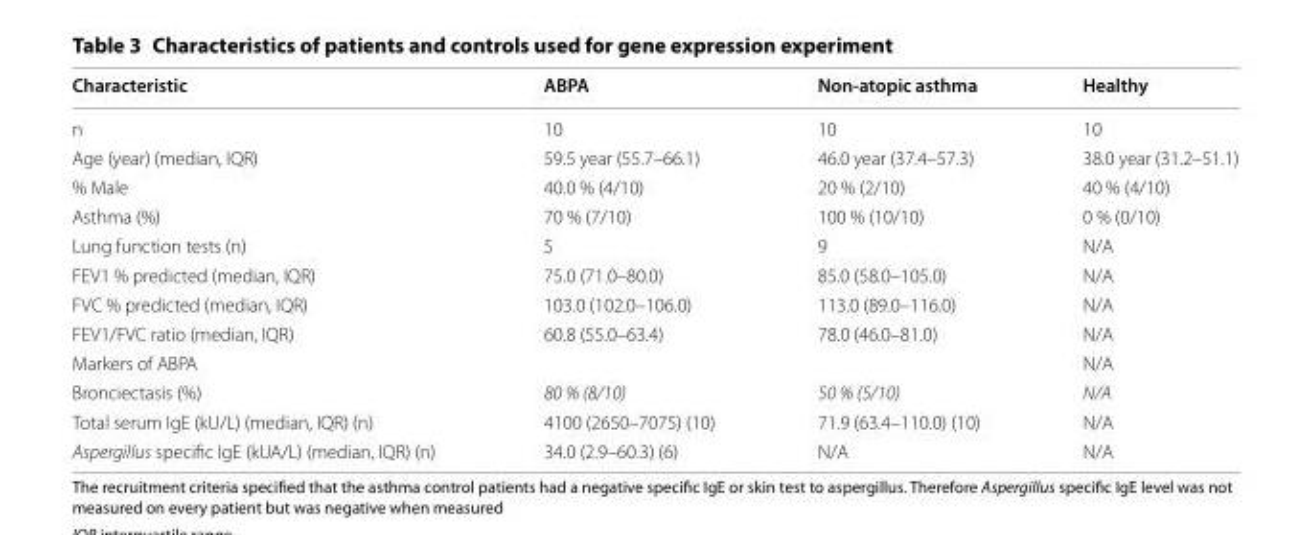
<table><thead><tr><td>Characteristic</td><td>ABPA</td><td>Non‑atopic asthma</td><td>Healthy</td></tr></thead><tbody><tr><td>n</td><td>10</td><td>10</td><td>10</td></tr><tr><td>Age (year) (median, IQR)</td><td>59.5 year (55.7–66.1)</td><td>46.0 year (37.4–57.3)</td><td>38.0 year (31.2–51.1)</td></tr><tr><td>% Male</td><td>40.0 % (4/10)</td><td>20 % (2/10)</td><td>40 % (4/10)</td></tr><tr><td>Asthma (%)</td><td>70 % (7/10)</td><td>100 % (10/10)</td><td>0 % (0/10)</td></tr><tr><td>Lung function tests (n)</td><td>5</td><td>9</td><td>N/A</td></tr><tr><td>FEV1 % predicted (median, IQR)</td><td>75.0 (71.0–80.0)</td><td>85.0 (58.0–105.0)</td><td>N/A</td></tr><tr><td>FVC % predicted (median, IQR)</td><td>103.0 (102.0–106.0)</td><td>113.0 (89.0–116.0)</td><td>N/A</td></tr><tr><td>FEV1/FVC ratio (median, IQR)</td><td>60.8 (55.0–63.4)</td><td>78.0 (46.0–81.0)</td><td>N/A</td></tr><tr><td>Markers of ABPA</td><td></td><td></td><td>N/A</td></tr><tr><td>Bronciectasis (%)</td><td>80 % (8/10)</td><td>50 % (5/10)</td><td>N/A</td></tr><tr><td>Total serum IgE (kU/L) (median, IQR) (n)</td><td>4100 (2650–7075) (10)</td><td>71.9 (63.4–110.0) (10)</td><td>N/A</td></tr><tr><td>Aspergillus specific IgE (kUA/L) (median, IQR) (n)</td><td>34.0 (2.9–60.3) (6)</td><td>N/A</td><td>N/A</td></tr></tbody></table>